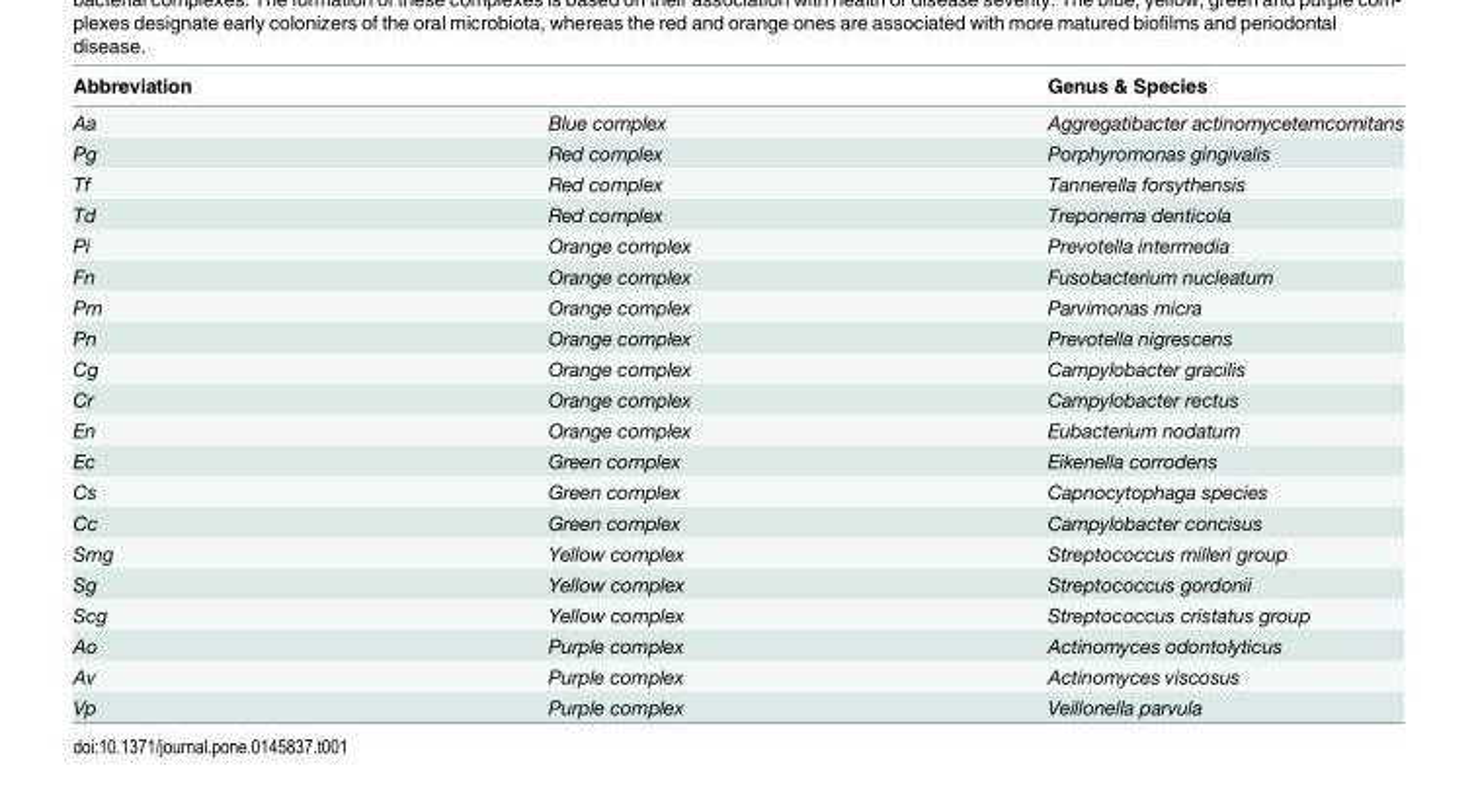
<table><thead><tr><td>Abbreviation</td><td></td><td>Genus &amp; Species</td></tr></thead><tbody><tr><td>Aa</td><td>Blue complex</td><td>Aggregatibacter actinomycetemcomitans</td></tr><tr><td>Pg</td><td>Red complex</td><td>Porphyromonas gingivalis</td></tr><tr><td>Tf</td><td>Red complex</td><td>Tannerella forsythensis</td></tr><tr><td>Td</td><td>Red complex</td><td>Treponema denticola</td></tr><tr><td>Pi</td><td>Orange complex</td><td>Prevotella intermedia</td></tr><tr><td>Fn</td><td>Orange complex</td><td>Fusobacterium nucleatum</td></tr><tr><td>Pm</td><td>Orange complex</td><td>Parvimonas micra</td></tr><tr><td>Pn</td><td>Orange complex</td><td>Prevotella nigrescens</td></tr><tr><td>Cg</td><td>Orange complex</td><td>Campylobacter gracilis</td></tr><tr><td>Cr</td><td>Orange complex</td><td>Campylobacter rectus</td></tr><tr><td>En</td><td>Orange complex</td><td>Eubacterium nodatum</td></tr><tr><td>Ec</td><td>Green complex</td><td>Eikenella corrodens</td></tr><tr><td>Cs</td><td>Green complex</td><td>Capnocytophaga species</td></tr><tr><td>Cc</td><td>Green complex</td><td>Campylobacter concisus</td></tr><tr><td>Smg</td><td>Yellow complex</td><td>Streptococcus milleri group</td></tr><tr><td>Sg</td><td>Yellow complex</td><td>Streptococcus gordonii</td></tr><tr><td>Scg</td><td>Yellow complex</td><td>Streptococcus cristatus group</td></tr><tr><td>Ao</td><td>Purple complex</td><td>Actinomyces odontolyticus</td></tr><tr><td>Av</td><td>Purple complex</td><td>Actinomyces viscosus</td></tr><tr><td>Vp</td><td>Purple complex</td><td>Veillonella parvula</td></tr></tbody></table>